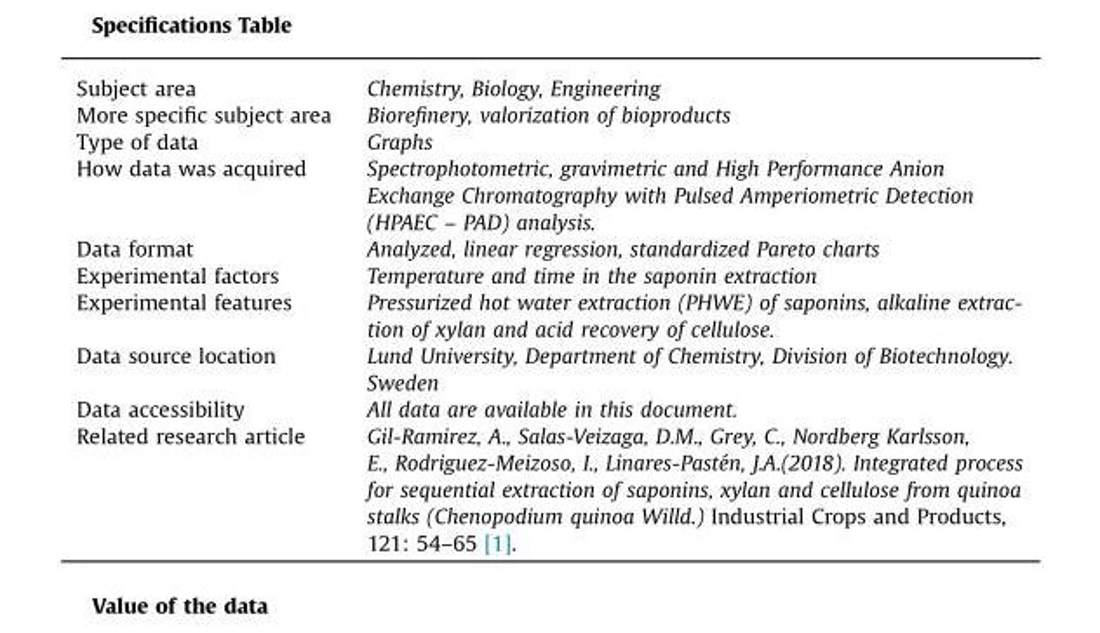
<table><thead><tr><td>Subject area</td><td>Chemistry, Biology, Engineering</td></tr></thead><tbody><tr><td>More specific subject area</td><td>Biorefinery, valorization of bioproducts</td></tr><tr><td>Type of data</td><td>Graphs</td></tr><tr><td>How data was acquired</td><td>Spectrophotometric, gravimetric and High Performance Anion Exchange Chromatography with Pulsed Amperiometric Detection (HPAEC – PAD) analysis.</td></tr><tr><td>Data format</td><td>Analyzed, linear regression, standardized Pareto charts</td></tr><tr><td>Experimental factors</td><td>Temperature and time in the saponin extraction</td></tr><tr><td>Experimental features</td><td>Pressurized hot water extraction (PHWE) of saponins, alkaline extrac- tion of xylan and acid recovery of cellulose.</td></tr><tr><td>Data source location</td><td>Lund University, Department of Chemistry, Division of Biotechnology. Sweden</td></tr><tr><td>Data accessibility</td><td>All data are available in this document.</td></tr><tr><td>Related research article</td><td>Gil-Ramirez, A., Salas-Veizaga, D.M., Grey, C., Nordberg Karlsson, E., Rodriguez-Meizoso, I., Linares-Pastén, J.A.(2018). Integrated process for sequential extraction of saponins, xylan and cellulose from quinoa stalks (Chenopodium quinoa Willd.) Industrial Crops and Products, 121: 54–65 [1].</td></tr></tbody></table>